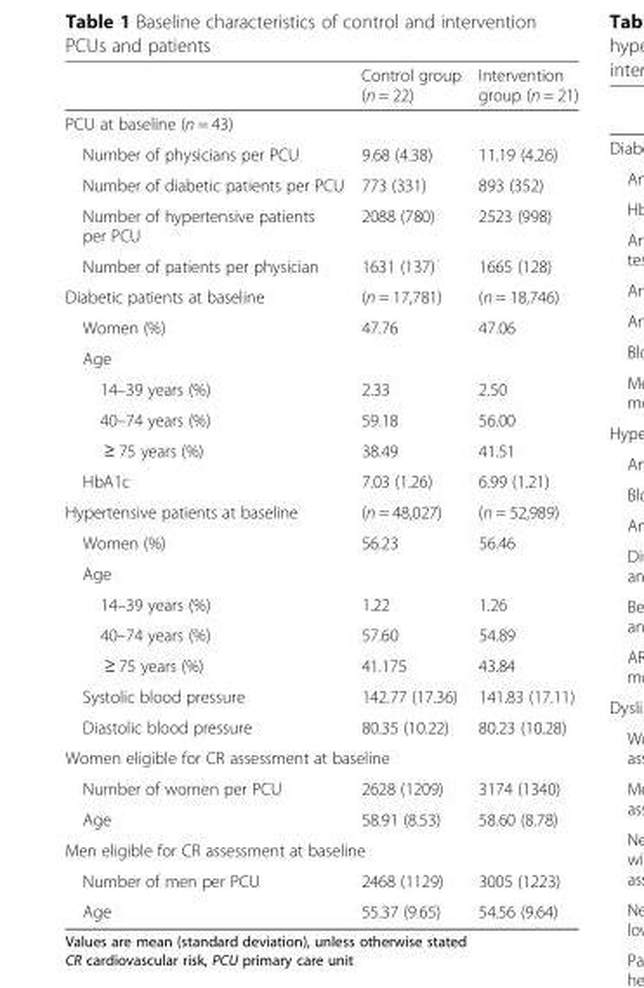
<table><thead><tr><td></td><td>Control group (n = 22)</td><td>Intervention group (n = 21)</td></tr></thead><tbody><tr><td colspan="3">PCU at baseline (n = 43)</td></tr><tr><td>Number of physicians per PCU</td><td>9.68 (4.38)</td><td>11.19 (4.26)</td></tr><tr><td>Number of diabetic patients per PCU</td><td>773 (331)</td><td>893 (352)</td></tr><tr><td>Number of hypertensive patients per PCU</td><td>2088 (780)</td><td>2523 (998)</td></tr><tr><td>Number of patients per physician</td><td>1631 (137)</td><td>1665 (128)</td></tr><tr><td>Diabetic patients at baseline</td><td>(n = 17,781)</td><td>(n = 18,746)</td></tr><tr><td>Women (%)</td><td>47.76</td><td>47.06</td></tr><tr><td colspan="3">Age</td></tr><tr><td>14–39 years (%)</td><td>2.33</td><td>2.50</td></tr><tr><td>40–74 years (%)</td><td>59.18</td><td>56.00</td></tr><tr><td>≥ 75 years (%)</td><td>38.49</td><td>41.51</td></tr><tr><td>HbA1c</td><td>7.03 (1.26)</td><td>6.99 (1.21)</td></tr><tr><td>Hypertensive patients at baseline</td><td>(n = 48,027)</td><td>(n = 52,989)</td></tr><tr><td>Women (%)</td><td>56.23</td><td>56.46</td></tr><tr><td colspan="3">Age</td></tr><tr><td>14–39 years (%)</td><td>1.22</td><td>1.26</td></tr><tr><td>40–74 years (%)</td><td>57.60</td><td>54.89</td></tr><tr><td>≥ 75 years (%)</td><td>41.175</td><td>43.84</td></tr><tr><td>Systolic blood pressure</td><td>142.77 (17.36)</td><td>141.83 (17.11)</td></tr><tr><td>Diastolic blood pressure</td><td>80.35 (10.22)</td><td>80.23 (10.28)</td></tr><tr><td colspan="3">Women eligible for CR assessment at baseline</td></tr><tr><td>Number of women per PCU</td><td>2628 (1209)</td><td>3174 (1340)</td></tr><tr><td>Age</td><td>58.91 (8.53)</td><td>58.60 (8.78)</td></tr><tr><td colspan="3">Men eligible for CR assessment at baseline</td></tr><tr><td>Number of men per PCU</td><td>2468 (1129)</td><td>3005 (1223)</td></tr><tr><td>Age</td><td>55.37 (9.65)</td><td>54.56 (9.64)</td></tr></tbody></table>